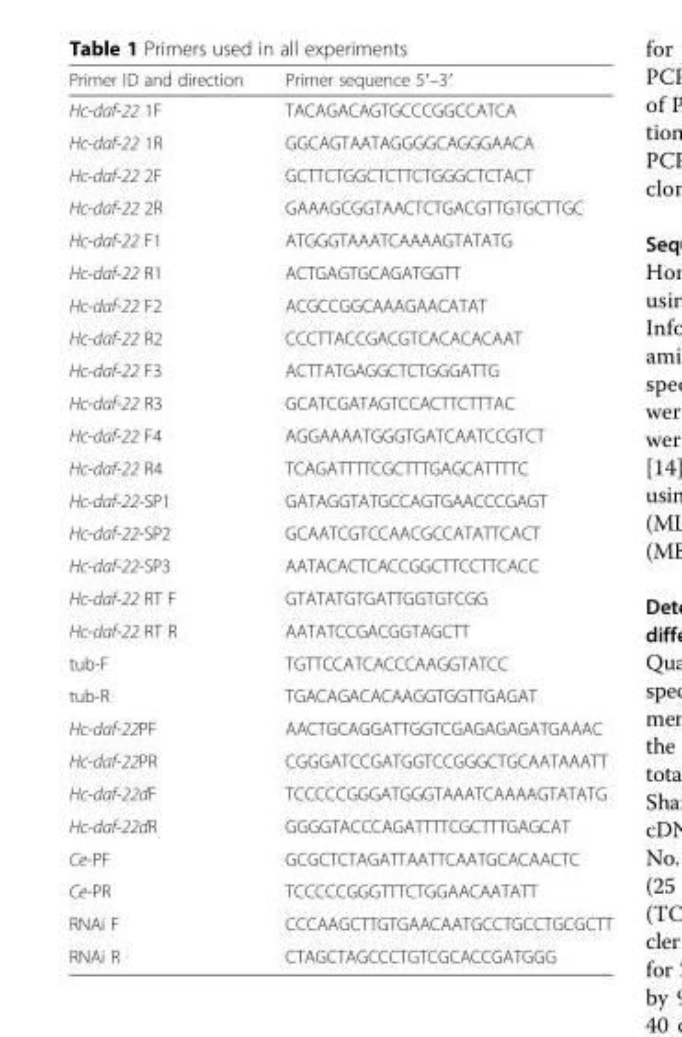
<table><thead><tr><td>Primer ID and direction</td><td>Primer sequence 5′–3′</td></tr></thead><tbody><tr><td>Hc-daf-22 1F</td><td>TACAGACAGTGCCCGGCCATCA</td></tr><tr><td>Hc-daf-22 1R</td><td>GGCAGTAATAGGGGCAGGGAACA</td></tr><tr><td>Hc-daf-22 2F</td><td>GCTTCTGGCTCTTCTGGGCTCTACT</td></tr><tr><td>Hc-daf-22 2R</td><td>GAAAGCGGTAACTCTGACGTTGTGCTTGC</td></tr><tr><td>Hc-daf-22 F1</td><td>ATGGGTAAATCAAAAGTATATG</td></tr><tr><td>Hc-daf-22 R1</td><td>ACTGAGTGCAGATGGTT</td></tr><tr><td>Hc-daf-22 F2</td><td>ACGCCGGCAAAGAACATAT</td></tr><tr><td>Hc-daf-22 R2</td><td>CCCTTACCGACGTCACACACAAT</td></tr><tr><td>Hc-daf-22 F3</td><td>ACTTATGAGGCTCTGGGATTG</td></tr><tr><td>Hc-daf-22 R3</td><td>GCATCGATAGTCCACTTCTTTAC</td></tr><tr><td>Hc-daf-22 F4</td><td>AGGAAAATGGGTGATCAATCCGTCT</td></tr><tr><td>Hc-daf-22 R4</td><td>TCAGATTTTCGCTTTGAGCATTTTC</td></tr><tr><td>Hc-daf-22-SP1</td><td>GATAGGTATGCCAGTGAACCCGAGT</td></tr><tr><td>Hc-daf-22-SP2</td><td>GCAATCGTCCAACGCCATATTCACT</td></tr><tr><td>Hc-daf-22-SP3</td><td>AATACACTCACCGGCTTCCTTCACC</td></tr><tr><td>Hc-daf-22 RT F</td><td>GTATATGTGATTGGTGTCGG</td></tr><tr><td>Hc-daf-22 RT R</td><td>AATATCCGACGGTAGCTT</td></tr><tr><td>tub-F</td><td>TGTTCCATCACCCAAGGTATCC</td></tr><tr><td>tub-R</td><td>TGACAGACACAAGGTGGTTGAGAT</td></tr><tr><td>Hc-daf-22PF</td><td>AACTGCAGGATTGGTCGAGAGAGATGAAAC</td></tr><tr><td>Hc-daf-22PR</td><td>CGGGATCCGATGGTCCGGGCTGCAATAAATT</td></tr><tr><td>Hc-daf-22dF</td><td>TCCCCCGGGATGGGTAAATCAAAAGTATATG</td></tr><tr><td>Hc-daf-22dR</td><td>GGGGTACCCAGATTTTCGCTTTGAGCAT</td></tr><tr><td>Ce-PF</td><td>GCGCTCTAGATTAATTCAATGCACAACTC</td></tr><tr><td>Ce-PR</td><td>TCCCCCGGGTTTCTGGAACAATATT</td></tr><tr><td>RNAi F</td><td>CCCAAGCTTGTGAACAATGCCTGCCTGCGCTT</td></tr><tr><td>RNAi R</td><td>CTAGCTAGCCCTGTCGCACCGATGGG</td></tr></tbody></table>